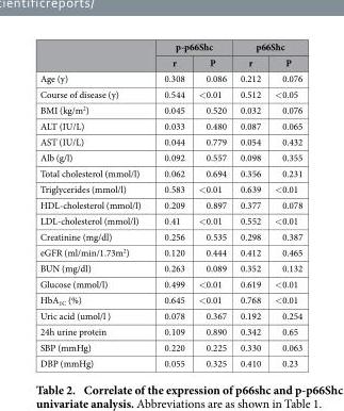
<table><thead><tr><td rowspan="2"></td><td colspan="2">p-p66Shc</td><td colspan="2">p66Shc</td></tr><tr><td>r</td><td>P</td><td>r</td><td>P</td></tr></thead><tbody><tr><td>Age (y)</td><td>0.308</td><td>0.086</td><td>0.212</td><td>0.076</td></tr><tr><td>Course of disease (y)</td><td>0.544</td><td>&lt; 0.01</td><td>0.512</td><td>&lt; 0.05</td></tr><tr><td>BMI (kg/m<sup>2</sup>)</td><td>0.045</td><td>0.520</td><td>0.032</td><td>0.076</td></tr><tr><td>ALT (IU/L)</td><td>0.033</td><td>0.480</td><td>0.087</td><td>0.065</td></tr><tr><td>AST (IU/L)</td><td>0.044</td><td>0.779</td><td>0.054</td><td>0.432</td></tr><tr><td>Alb (g/l)</td><td>0.092</td><td>0.557</td><td>0.098</td><td>0.355</td></tr><tr><td>Total cholesterol (mmol/l)</td><td>0.062</td><td>0.694</td><td>0.356</td><td>0.231</td></tr><tr><td>Triglycerides (mmol/l)</td><td>0.583</td><td>&lt; 0.01</td><td>0.639</td><td>&lt; 0.01</td></tr><tr><td>HDL-cholesterol (mmol/l)</td><td>0.209</td><td>0.897</td><td>0.377</td><td>0.078</td></tr><tr><td>LDL-cholesterol (mmol/l)</td><td>0.41</td><td>&lt; 0.01</td><td>0.552</td><td>&lt; 0.01</td></tr><tr><td>Creatinine (mg/dl)</td><td>0.256</td><td>0.535</td><td>0.298</td><td>0.387</td></tr><tr><td>eGFR (ml/min/1.73m<sup>2</sup>)</td><td>0.120</td><td>0.444</td><td>0.412</td><td>0.465</td></tr><tr><td>BUN (mg/dl)</td><td>0.263</td><td>0.089</td><td>0.352</td><td>0.132</td></tr><tr><td>Glucose (mmol/l)</td><td>0.499</td><td>&lt; 0.01</td><td>0.619</td><td>&lt; 0.01</td></tr><tr><td>HbA<sub>1C</sub> (%)</td><td>0.645</td><td>&lt; 0.01</td><td>0.768</td><td>&lt; 0.01</td></tr><tr><td>Uric acid (umol/l )</td><td>0.078</td><td>0.367</td><td>0.192</td><td>0.254</td></tr><tr><td>24h urine protein</td><td>0.109</td><td>0.890</td><td>0.342</td><td>0.65</td></tr><tr><td>SBP (mmHg)</td><td>0.220</td><td>0.225</td><td>0.330</td><td>0.063</td></tr><tr><td>DBP (mmHg)</td><td>0.055</td><td>0.325</td><td>0.410</td><td>0.23</td></tr></tbody></table>